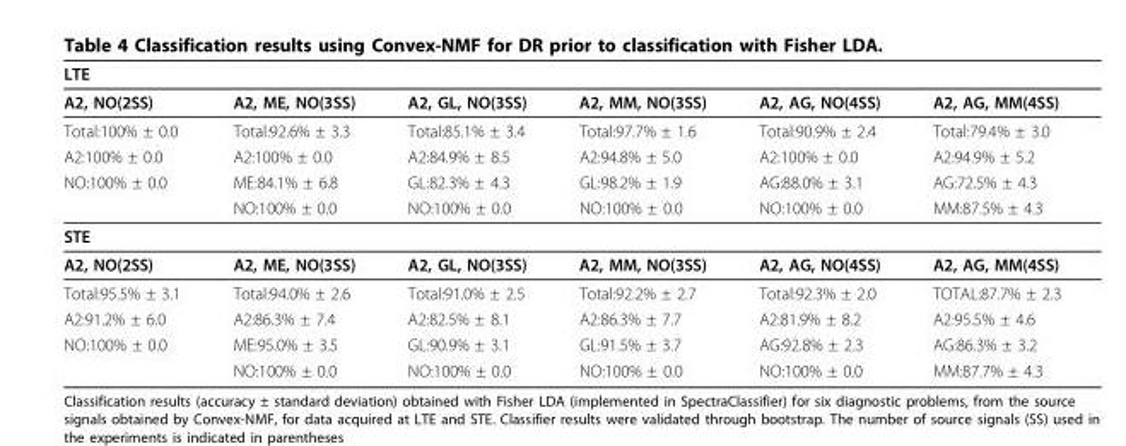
<table><thead><tr><td>LTE</td><td></td><td></td><td></td><td></td><td></td></tr></thead><tbody><tr><td>A2, NO(2SS)</td><td>A2, ME, NO(3SS)</td><td>A2, GL, NO(3SS)</td><td>A2, MM, NO(3SS)</td><td>A2, AG, NO(4SS)</td><td>A2, AG, MM(4SS)</td></tr><tr><td>Total:100% ± 0.0</td><td>Total:92.6% ± 3.3</td><td>Total:85.1% ± 3.4</td><td>Total:97.7% ± 1.6</td><td>Total:90.9% ± 2.4</td><td>Total:79.4% ± 3.0</td></tr><tr><td>A2:100% ± 0.0</td><td>A2:100% ± 0.0</td><td>A2:84.9% ± 8.5</td><td>A2:94.8% ± 5.0</td><td>A2:100% ± 0.0</td><td>A2:94.9% ± 5.2</td></tr><tr><td rowspan="2">NO:100% ± 0.0</td><td>ME:84.1% ± 6.8</td><td>GL:82.3% ± 4.3</td><td>GL:98.2% ± 1.9</td><td>AG:88.0% ± 3.1</td><td>AG:72.5% ± 4.3</td></tr><tr><td>NO:100% ± 0.0</td><td>NO:100% ± 0.0</td><td>NO:100% ± 0.0</td><td>NO:100% ± 0.0</td><td>MM:87.5% ± 4.3</td></tr><tr><td colspan="6">STE</td></tr><tr><td>A2, NO(2SS)</td><td>A2, ME, NO(3SS)</td><td>A2, GL, NO(3SS)</td><td>A2, MM, NO(3SS)</td><td>A2, AG, NO(4SS)</td><td>A2, AG, MM(4SS)</td></tr><tr><td>Total:95.5% ± 3.1</td><td>Total:94.0% ± 2.6</td><td>Total:91.0% ± 2.5</td><td>Total:92.2% ± 2.7</td><td>Total:92.3% ± 2.0</td><td>TOTAL:87.7% ± 2.3</td></tr><tr><td>A2:91.2% ± 6.0</td><td>A2:86.3% ± 7.4</td><td>A2:82.5% ± 8.1</td><td>A2:86.3% ± 7.7</td><td>A2:81.9% ± 8.2</td><td>A2:95.5% ± 4.6</td></tr><tr><td rowspan="2">NO:100% ± 0.0</td><td>ME:95.0% ± 3.5</td><td>GL:90.9% ± 3.1</td><td>GL:91.5% ± 3.7</td><td>AG:92.8% ± 2.3</td><td>AG:86.3% ± 3.2</td></tr><tr><td>NO:100% ± 0.0</td><td>NO:100% ± 0.0</td><td>NO:100% ± 0.0</td><td>NO:100% ± 0.0</td><td>MM:87.7% ± 4.3</td></tr></tbody></table>